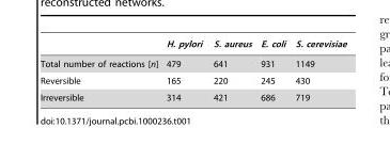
<table><thead><tr><td></td><td>H. pylori</td><td>S. aureus</td><td>E. coli</td><td>S. cerevisiae</td></tr></thead><tbody><tr><td>Total number of reactions [n]</td><td>479</td><td>641</td><td>931</td><td>1149</td></tr><tr><td>Reversible</td><td>165</td><td>220</td><td>245</td><td>430</td></tr><tr><td>Irreversible</td><td>314</td><td>421</td><td>686</td><td>719</td></tr></tbody></table>